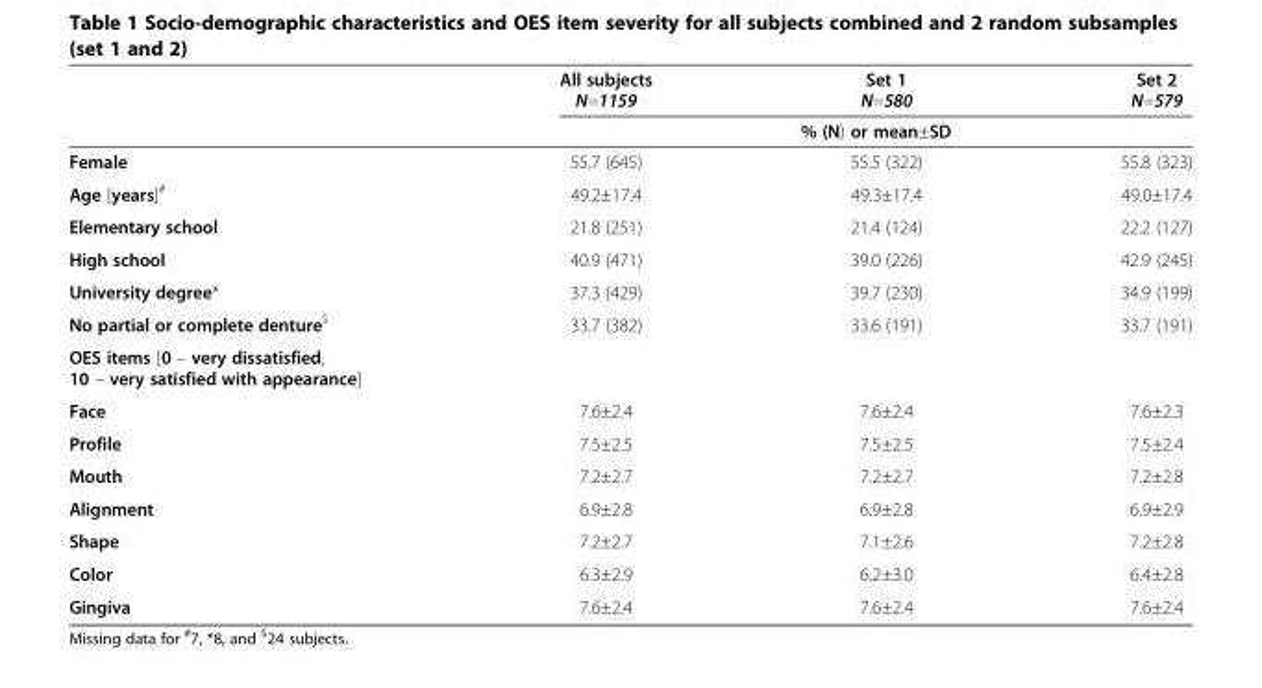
<table><thead><tr><td rowspan="2"></td><td>All subjects N=1159</td><td>Set 1 N=580</td><td>Set 2 N=579</td></tr><tr><td colspan="3">% (N) or mean±SD</td></tr></thead><tbody><tr><td>Female</td><td>55.7 (645)</td><td>55.5 (322)</td><td>55.8 (323)</td></tr><tr><td>Age [years]<sup>#</sup></td><td>49.2±17.4</td><td>49.3±17.4</td><td>49.0±17.4</td></tr><tr><td>Elementary school</td><td>21.8 (251)</td><td>21.4 (124)</td><td>22.2 (127)</td></tr><tr><td>High school</td><td>40.9 (471)</td><td>39.0 (226)</td><td>42.9 (245)</td></tr><tr><td>University degree*</td><td>37.3 (429)</td><td>39.7 (230)</td><td>34.9 (199)</td></tr><tr><td>No partial or complete denture<sup>$</sup></td><td>33.7 (382)</td><td>33.6 (191)</td><td>33.7 (191)</td></tr><tr><td colspan="4">OES items [0 – very dissatisfied, 10 – very satisfied with appearance]</td></tr><tr><td>Face</td><td>7.6±2.4</td><td>7.6±2.4</td><td>7.6±2.3</td></tr><tr><td>Profile</td><td>7.5±2.5</td><td>7.5±2.5</td><td>7.5±2.4</td></tr><tr><td>Mouth</td><td>7.2±2.7</td><td>7.2±2.7</td><td>7.2±2.8</td></tr><tr><td>Alignment</td><td>6.9±2.8</td><td>6.9±2.8</td><td>6.9±2.9</td></tr><tr><td>Shape</td><td>7.2±2.7</td><td>7.1±2.6</td><td>7.2±2.8</td></tr><tr><td>Color</td><td>6.3±2.9</td><td>6.2±3.0</td><td>6.4±2.8</td></tr><tr><td>Gingiva</td><td>7.6±2.4</td><td>7.6±2.4</td><td>7.6±2.4</td></tr></tbody></table>